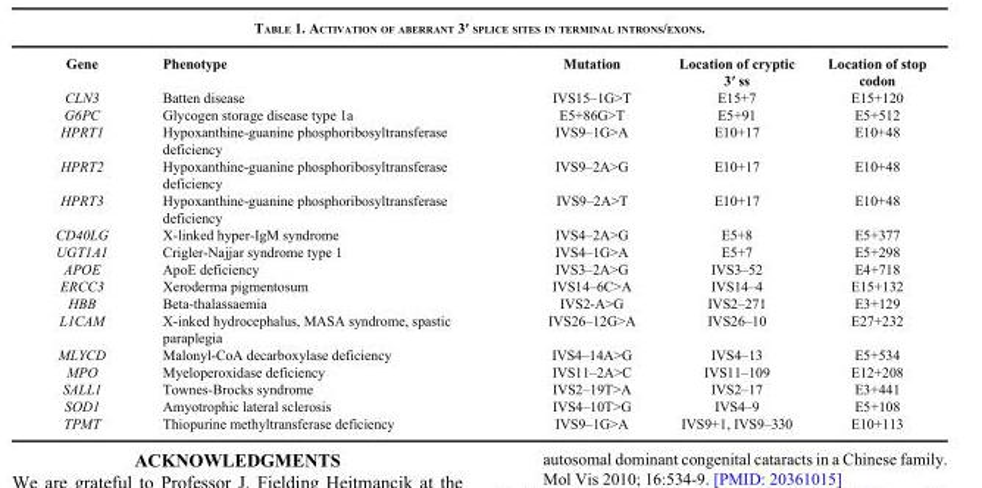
<table><thead><tr><td>Gene</td><td>Phenotype</td><td>Mutation</td><td>Location of cryptic 3′ ss</td><td>Location of stop codon</td></tr></thead><tbody><tr><td>CLN3</td><td>Batten disease</td><td>IVS15–1G&gt;T</td><td>E15+7</td><td>E15+120</td></tr><tr><td>G6PC</td><td>Glycogen storage disease type 1a</td><td>E5+86G&gt;T</td><td>E5+91</td><td>E5+512</td></tr><tr><td>HPRT1</td><td>Hypoxanthine-guanine phosphoribosyltransferase deficiency</td><td>IVS9–1G&gt;A</td><td>E10+17</td><td>E10+48</td></tr><tr><td>HPRT2</td><td>Hypoxanthine-guanine phosphoribosyltransferase deficiency</td><td>IVS9–2A&gt;G</td><td>E10+17</td><td>E10+48</td></tr><tr><td>HPRT3</td><td>Hypoxanthine-guanine phosphoribosyltransferase deficiency</td><td>IVS9–2A&gt;T</td><td>E10+17</td><td>E10+48</td></tr><tr><td>CD40LG</td><td>X-linked hyper-IgM syndrome</td><td>IVS4–2A&gt;G</td><td>E5+8</td><td>E5+377</td></tr><tr><td>UGT1A1</td><td>Crigler-Najjar syndrome type 1</td><td>IVS4–1G&gt;A</td><td>E5+7</td><td>E5+298</td></tr><tr><td>APOE</td><td>ApoE deficiency</td><td>IVS3–2A&gt;G</td><td>IVS3–52</td><td>E4+718</td></tr><tr><td>ERCC3</td><td>Xeroderma pigmentosum</td><td>IVS14–6C&gt;A</td><td>IVS14–4</td><td>E15+132</td></tr><tr><td>HBB</td><td>Beta-thalassaemia</td><td>IVS2-A&gt;G</td><td>IVS2–271</td><td>E3+129</td></tr><tr><td>L1CAM</td><td>X-inked hydrocephalus, MASA syndrome, spastic paraplegia</td><td>IVS26–12G&gt;A</td><td>IVS26–10</td><td>E27+232</td></tr><tr><td>MLYCD</td><td>Malonyl-CoA decarboxylase deficiency</td><td>IVS4–14A&gt;G</td><td>IVS4–13</td><td>E5+534</td></tr><tr><td>MPO</td><td>Myeloperoxidase deficiency</td><td>IVS11–2A&gt;C</td><td>IVS11–109</td><td>E12+208</td></tr><tr><td>SALL1</td><td>Townes-Brocks syndrome</td><td>IVS2–19T&gt;A</td><td>IVS2–17</td><td>E3+441</td></tr><tr><td>SOD1</td><td>Amyotrophic lateral sclerosis</td><td>IVS4–10T&gt;G</td><td>IVS4–9</td><td>E5+108</td></tr><tr><td>TPMT</td><td>Thiopurine methyltransferase deficiency</td><td>IVS9–1G&gt;A</td><td>IVS9+1, IVS9–330</td><td>E10+113</td></tr></tbody></table>